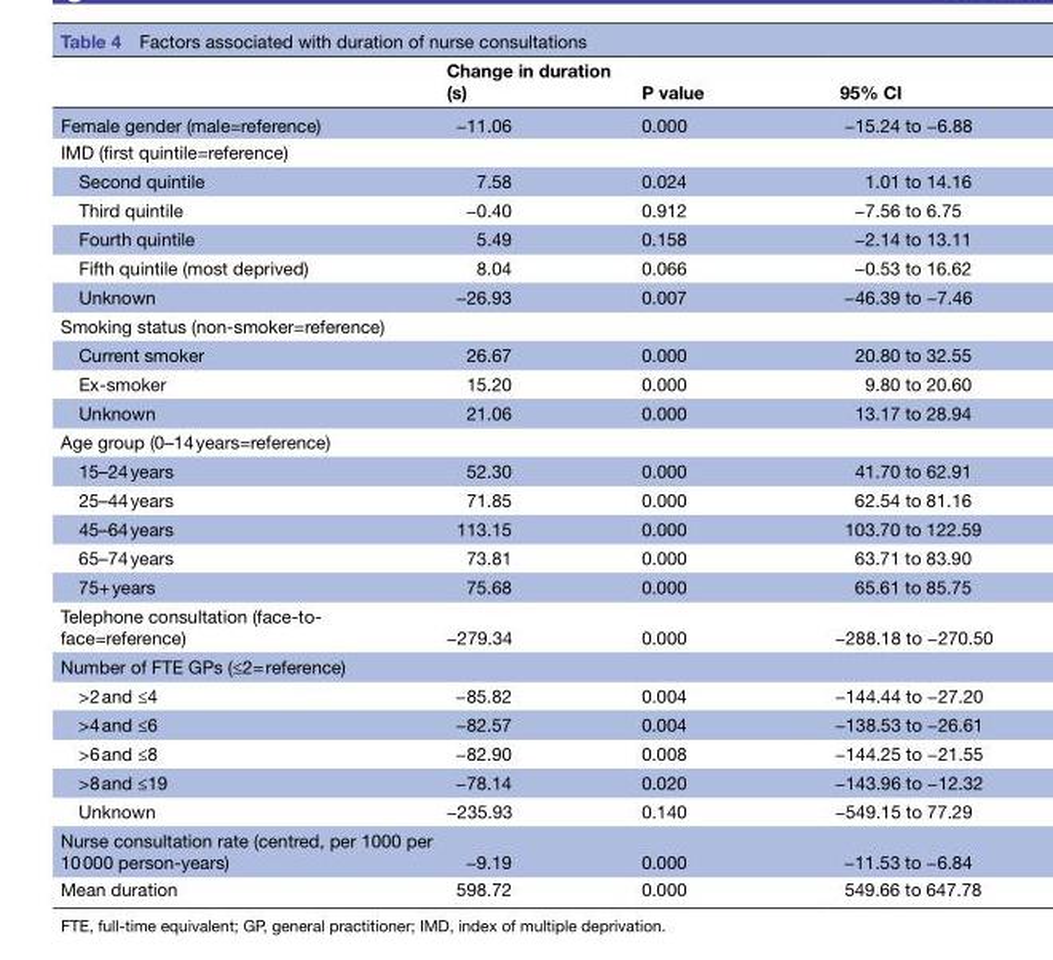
<table><thead><tr><td></td><td>Change in duration (s)</td><td>P value</td><td>95% CI</td></tr></thead><tbody><tr><td>Female gender (male=reference)</td><td>−11.06</td><td>0.000</td><td>−15.24 to −6.88</td></tr><tr><td colspan="4">IMD (first quintile=reference)</td></tr><tr><td>Second quintile</td><td>7.58</td><td>0.024</td><td>1.01 to 14.16</td></tr><tr><td>Third quintile</td><td>−0.40</td><td>0.912</td><td>−7.56 to 6.75</td></tr><tr><td>Fourth quintile</td><td>5.49</td><td>0.158</td><td>−2.14 to 13.11</td></tr><tr><td>Fifth quintile (most deprived)</td><td>8.04</td><td>0.066</td><td>−0.53 to 16.62</td></tr><tr><td>Unknown</td><td>−26.93</td><td>0.007</td><td>−46.39 to −7.46</td></tr><tr><td colspan="4">Smoking status (non-smoker=reference)</td></tr><tr><td>Current smoker</td><td>26.67</td><td>0.000</td><td>20.80 to 32.55</td></tr><tr><td>Ex-smoker</td><td>15.20</td><td>0.000</td><td>9.80 to 20.60</td></tr><tr><td>Unknown</td><td>21.06</td><td>0.000</td><td>13.17 to 28.94</td></tr><tr><td colspan="4">Age group (0–14 years=reference)</td></tr><tr><td>15–24 years</td><td>52.30</td><td>0.000</td><td>41.70 to 62.91</td></tr><tr><td>25–44 years</td><td>71.85</td><td>0.000</td><td>62.54 to 81.16</td></tr><tr><td>45–64 years</td><td>113.15</td><td>0.000</td><td>103.70 to 122.59</td></tr><tr><td>65–74 years</td><td>73.81</td><td>0.000</td><td>63.71 to 83.90</td></tr><tr><td>75+ years</td><td>75.68</td><td>0.000</td><td>65.61 to 85.75</td></tr><tr><td>Telephone consultation (face-to- face=reference)</td><td>−279.34</td><td>0.000</td><td>−288.18 to −270.50</td></tr><tr><td colspan="4">Number of FTE GPs (≤2= reference)</td></tr><tr><td>&gt;2 and ≤4</td><td>−85.82</td><td>0.004</td><td>−144.44 to −27.20</td></tr><tr><td>&gt;4 and ≤6</td><td>−82.57</td><td>0.004</td><td>−138.53 to −26.61</td></tr><tr><td>&gt;6 and ≤8</td><td>−82.90</td><td>0.008</td><td>−144.25 to −21.55</td></tr><tr><td>&gt;8 and ≤19</td><td>−78.14</td><td>0.020</td><td>−143.96 to −12.32</td></tr><tr><td>Unknown</td><td>−235.93</td><td>0.140</td><td>−549.15 to 77.29</td></tr><tr><td>Nurse consultation rate (centred, per 1000 per 10 000 person-years)</td><td>−9.19</td><td>0.000</td><td>−11.53 to −6.84</td></tr><tr><td>Mean duration</td><td>598.72</td><td>0.000</td><td>549.66 to 647.78</td></tr></tbody></table>